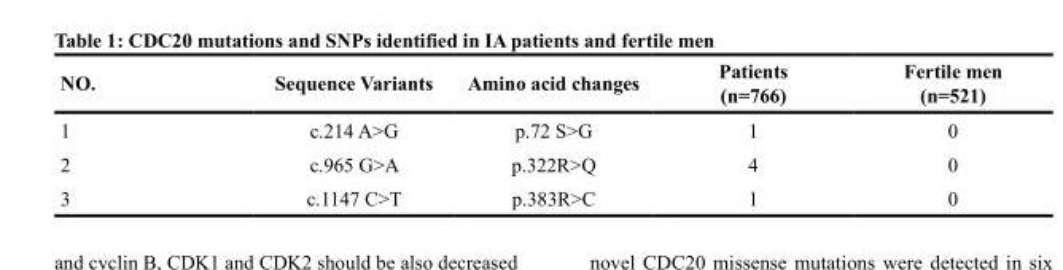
<table><thead><tr><td>NO.</td><td>Sequence Variants</td><td>Amino acid changes</td><td>Patients (n=766)</td><td>Fertile men (n=521)</td></tr></thead><tbody><tr><td>1</td><td>c.214 A&gt;G</td><td>p.72 S&gt;G</td><td>1</td><td>0</td></tr><tr><td>2</td><td>c.965 G&gt;A</td><td>p.322R&gt;Q</td><td>4</td><td>0</td></tr><tr><td>3</td><td>c.1147 C&gt;T</td><td>p.383R&gt;C</td><td>1</td><td>0</td></tr></tbody></table>